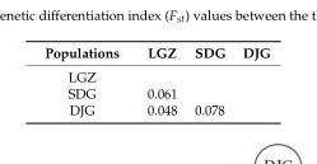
<table><thead><tr><td>Populations</td><td>LGZ</td><td>SDG</td><td>DJG</td></tr></thead><tbody><tr><td colspan="4">LGZ</td></tr><tr><td>SDG</td><td>0.061</td><td></td><td></td></tr><tr><td>DJG</td><td>0.048</td><td>0.078</td><td></td></tr></tbody></table>